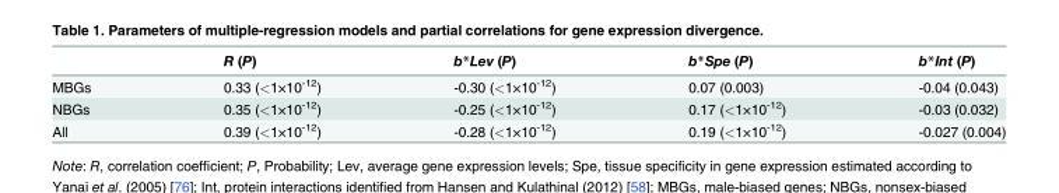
<table><thead><tr><td></td><td>R (P)</td><td>b*Lev (P)</td><td>b*Spe (P)</td><td>b*Int (P)</td></tr></thead><tbody><tr><td>MBGs</td><td>0.33 (&lt;1×10<sup>-12</sup>)</td><td>-0.30 (&lt;1×10<sup>-12</sup>)</td><td>0.07 (0.003)</td><td>-0.04 (0.043)</td></tr><tr><td>NBGs</td><td>0.35 (&lt;1×10<sup>-12</sup>)</td><td>-0.25 (&lt;1×10<sup>-12</sup>)</td><td>0.17 (&lt;1×10<sup>-12</sup>)</td><td>-0.03 (0.032)</td></tr><tr><td>All</td><td>0.39 (&lt;1×10<sup>-12</sup>)</td><td>-0.28 (&lt;1×10<sup>-12</sup>)</td><td>0.19 (&lt;1×10<sup>-12</sup>)</td><td>-0.027 (0.004)</td></tr></tbody></table>